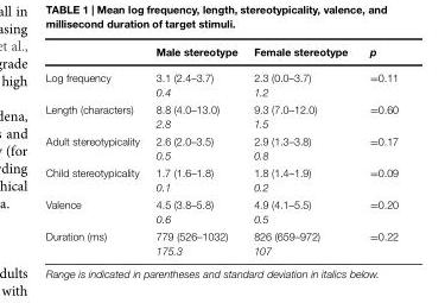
<table><thead><tr><td></td><td>Male stereotype</td><td>Female stereotype</td><td>p</td></tr></thead><tbody><tr><td>Log frequency</td><td>3.1 (2.4–3.7) 0.4</td><td>2.3 (0.0–3.7) 1.2</td><td>=0.11</td></tr><tr><td>Length (characters)</td><td>8.8 (4.0–13.0) 2.8</td><td>9.3 (7.0–12.0) 1.5</td><td>=0.60</td></tr><tr><td>Adult stereotypicality</td><td>2.6 (2.0–3.5) 0.5</td><td>2.9 (1.3–3.8) 0.8</td><td>=0.17</td></tr><tr><td>Child stereotypicality</td><td>1.7 (1.6–1.8) 0.1</td><td>1.8 (1.4–1.9) 0.2</td><td>=0.09</td></tr><tr><td>Valence</td><td>4.5 (3.8–5.8) 0.6</td><td>4.9 (4.1–5.5) 0.5</td><td>=0.20</td></tr><tr><td>Duration (ms)</td><td>779 (526–1032) 175.3</td><td>826 (659–972) 107</td><td>=0.22</td></tr></tbody></table>